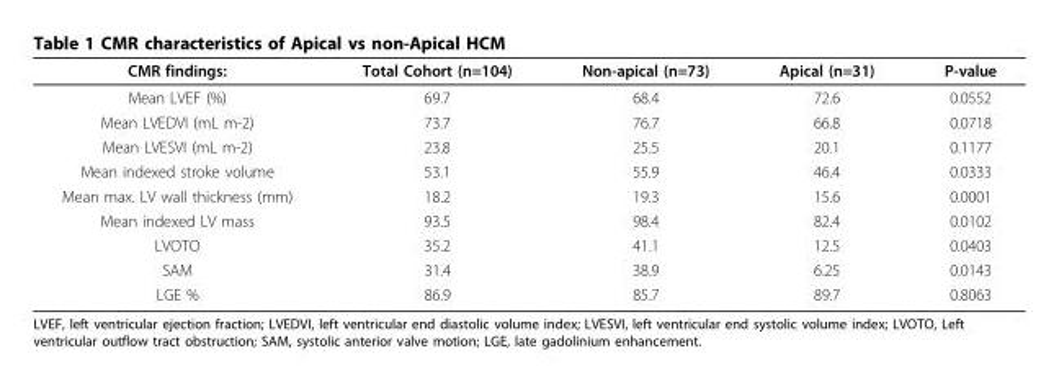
<table><thead><tr><td>CMR findings:</td><td>Total Cohort (n=104)</td><td>Non-apical (n=73)</td><td>Apical (n=31)</td><td>P-value</td></tr></thead><tbody><tr><td>Mean LVEF (%)</td><td>69.7</td><td>68.4</td><td>72.6</td><td>0.0552</td></tr><tr><td>Mean LVEDVI (mL m-2)</td><td>73.7</td><td>76.7</td><td>66.8</td><td>0.0718</td></tr><tr><td>Mean LVESVI (mL m-2)</td><td>23.8</td><td>25.5</td><td>20.1</td><td>0.1177</td></tr><tr><td>Mean indexed stroke volume</td><td>53.1</td><td>55.9</td><td>46.4</td><td>0.0333</td></tr><tr><td>Mean max. LV wall thickness (mm)</td><td>18.2</td><td>19.3</td><td>15.6</td><td>0.0001</td></tr><tr><td>Mean indexed LV mass</td><td>93.5</td><td>98.4</td><td>82.4</td><td>0.0102</td></tr><tr><td>LVOTO</td><td>35.2</td><td>41.1</td><td>12.5</td><td>0.0403</td></tr><tr><td>SAM</td><td>31.4</td><td>38.9</td><td>6.25</td><td>0.0143</td></tr><tr><td>LGE %</td><td>86.9</td><td>85.7</td><td>89.7</td><td>0.8063</td></tr></tbody></table>